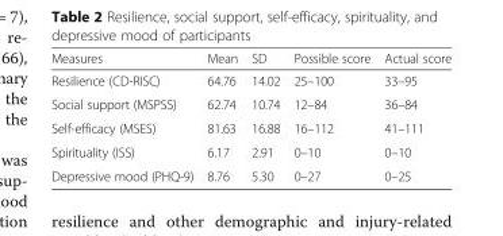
<table><thead><tr><td>Measures</td><td>Mean</td><td>SD</td><td>Possible score</td><td>Actual score</td></tr></thead><tbody><tr><td>Resilience (CD-RISC)</td><td>64.76</td><td>14.02</td><td>25–100</td><td>33–95</td></tr><tr><td>Social support (MSPSS)</td><td>62.74</td><td>10.74</td><td>12–84</td><td>36–84</td></tr><tr><td>Self-efficacy (MSES)</td><td>81.63</td><td>16.88</td><td>16–112</td><td>41–111</td></tr><tr><td>Spirituality (ISS)</td><td>6.17</td><td>2.91</td><td>0–10</td><td>0–10</td></tr><tr><td>Depressive mood (PHQ-9)</td><td>8.76</td><td>5.30</td><td>0–27</td><td>0–25</td></tr></tbody></table>